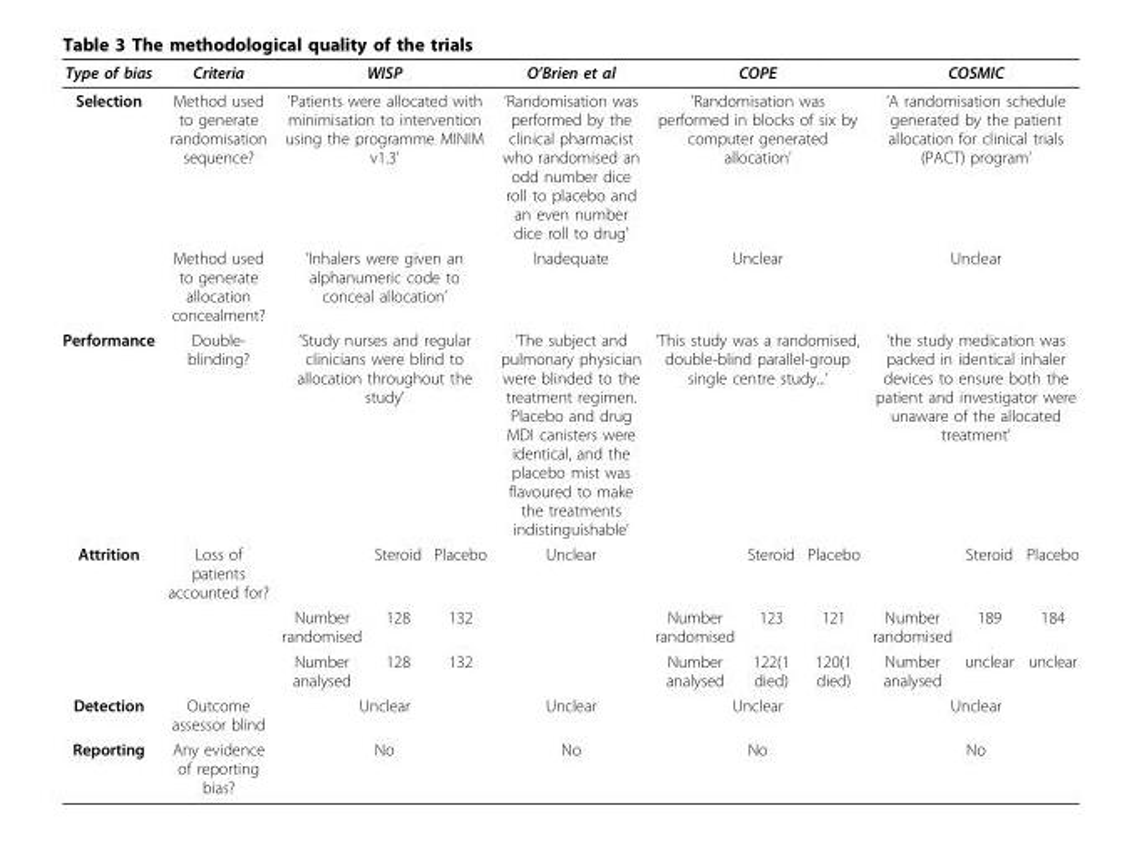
<table><thead><tr><td>Type of bias</td><td>Criteria</td><td colspan="3">WISP</td><td>O’Brien et al</td><td colspan="3">COPE</td><td colspan="3">COSMIC</td></tr></thead><tbody><tr><td rowspan="2">Selection</td><td>Method used to generate randomisation sequence?</td><td colspan="3">’Patients were allocated with minimisation to intervention using the programme MINIM v1.3’</td><td>’Randomisation was performed by the clinical pharmacist who randomised an odd number dice roll to placebo and an even number dice roll to drug’</td><td colspan="3">’Randomisation was performed in blocks of six by computer generated allocation’</td><td colspan="3">’A randomisation schedule generated by the patient allocation for clinical trials (PACT) program’</td></tr><tr><td>Method used to generate allocation concealment?</td><td colspan="3">’Inhalers were given an alphanumeric code to conceal allocation’</td><td>Inadequate</td><td colspan="3">Unclear</td><td colspan="3">Unclear</td></tr><tr><td>Performance</td><td>Double- blinding?</td><td colspan="3">’Study nurses and regular clinicians were blind to allocation throughout the study’</td><td>’The subject and pulmonary physician were blinded to the treatment regimen. Placebo and drug MDI canisters were identical, and the placebo mist was flavoured to make the treatments indistinguishable’</td><td colspan="3">’This study was a randomised, double-blind parallel-group single centre study...’</td><td colspan="3">’the study medication was packed in identical inhaler devices to ensure both the patient and investigator were unaware of the allocated treatment’</td></tr><tr><td rowspan="3">Attrition</td><td>Loss of patients accounted for?</td><td></td><td>Steroid</td><td>Placebo</td><td>Unclear</td><td></td><td>Steroid</td><td>Placebo</td><td></td><td>Steroid</td><td>Placebo</td></tr><tr><td></td><td>Number randomised</td><td>128</td><td>132</td><td></td><td>Number randomised</td><td>123</td><td>121</td><td>Number randomised</td><td>189</td><td>184</td></tr><tr><td></td><td>Number analysed</td><td>128</td><td>132</td><td></td><td>Number analysed</td><td>122(1 died)</td><td>120(1 died)</td><td>Number analysed</td><td>unclear</td><td>unclear</td></tr><tr><td>Detection</td><td>Outcome assessor blind</td><td colspan="3">Unclear</td><td>Unclear</td><td colspan="3">Unclear</td><td colspan="3">Unclear</td></tr><tr><td>Reporting</td><td>Any evidence of reporting bias?</td><td colspan="3">No</td><td>No</td><td colspan="3">No</td><td colspan="3">No</td></tr></tbody></table>